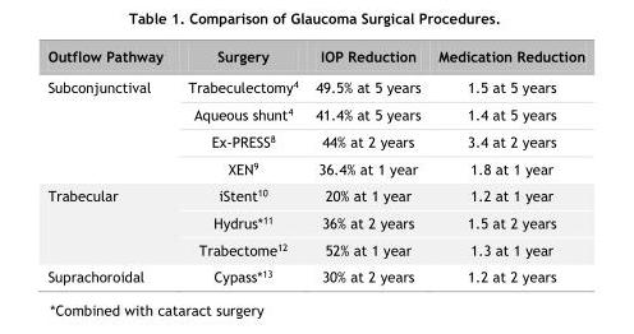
<table><thead><tr><td>Outflow Pathway</td><td>Surgery</td><td>IOP Reduction</td><td>Medication Reduction</td></tr></thead><tbody><tr><td rowspan="4">Subconjunctival</td><td>Trabeculectomy<sup>4</sup></td><td>49.5% at 5 years</td><td>1.5 at 5 years</td></tr><tr><td>Aqueous shunt<sup>4</sup></td><td>41.4% at 5 years</td><td>1.4 at 5 years</td></tr><tr><td>Ex-PRESS<sup>8</sup></td><td>44% at 2 years</td><td>3.4 at 2 years</td></tr><tr><td>XEN<sup>9</sup></td><td>36.4% at 1 year</td><td>1.8 at 1 year</td></tr><tr><td rowspan="3">Trabecular</td><td>iStent<sup>10</sup></td><td>20% at 1 year</td><td>1.2 at 1 year</td></tr><tr><td>Hydrus*<sup>11</sup></td><td>36% at 2 years</td><td>1.5 at 2 years</td></tr><tr><td>Trabectome<sup>12</sup></td><td>52% at 1 year</td><td>1.3 at 1 year</td></tr><tr><td>Suprachoroidal</td><td>Cypass*<sup>13</sup></td><td>30% at 2 years</td><td>1.2 at 2 years</td></tr></tbody></table>